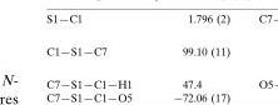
<table><tbody><tr><td>C1—S1—C7</td><td>99.10 (11)</td></tr></tbody></table>